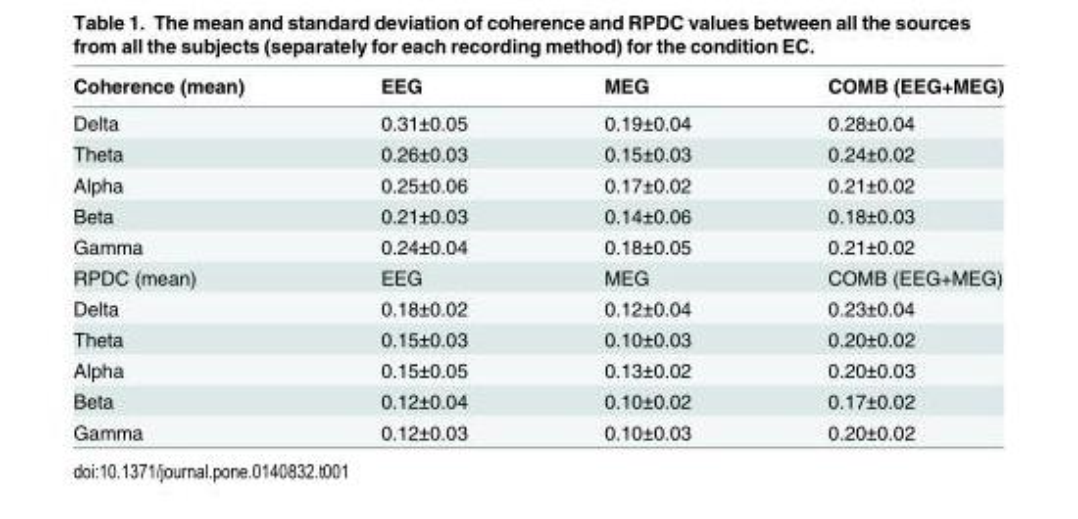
<table><thead><tr><td>Coherence (mean)</td><td>EEG</td><td>MEG</td><td>COMB (EEG+MEG)</td></tr></thead><tbody><tr><td>Delta</td><td>0.31±0.05</td><td>0.19±0.04</td><td>0.28±0.04</td></tr><tr><td>Theta</td><td>0.26±0.03</td><td>0.15±0.03</td><td>0.24±0.02</td></tr><tr><td>Alpha</td><td>0.25±0.06</td><td>0.17±0.02</td><td>0.21±0.02</td></tr><tr><td>Beta</td><td>0.21±0.03</td><td>0.14±0.06</td><td>0.18±0.03</td></tr><tr><td>Gamma</td><td>0.24±0.04</td><td>0.18±0.05</td><td>0.21±0.02</td></tr><tr><td>RPDC (mean)</td><td>EEG</td><td>MEG</td><td>COMB (EEG+MEG)</td></tr><tr><td>Delta</td><td>0.18±0.02</td><td>0.12±0.04</td><td>0.23±0.04</td></tr><tr><td>Theta</td><td>0.15±0.03</td><td>0.10±0.03</td><td>0.20±0.02</td></tr><tr><td>Alpha</td><td>0.15±0.05</td><td>0.13±0.02</td><td>0.20±0.03</td></tr><tr><td>Beta</td><td>0.12±0.04</td><td>0.10±0.02</td><td>0.17±0.02</td></tr><tr><td>Gamma</td><td>0.12±0.03</td><td>0.10±0.03</td><td>0.20±0.02</td></tr></tbody></table>